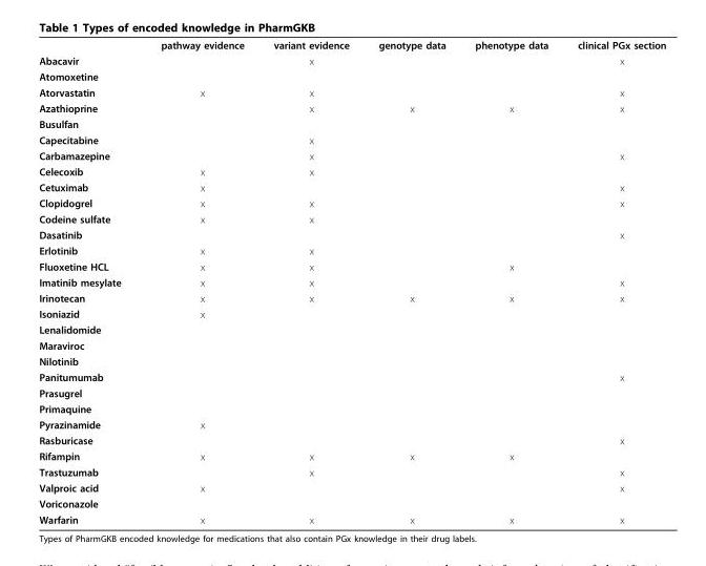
<table><thead><tr><td></td><td>pathway evidence</td><td>variant evidence</td><td>genotype data</td><td>phenotype data</td><td>clinical PGx section</td></tr></thead><tbody><tr><td>Abacavir</td><td></td><td>x</td><td></td><td></td><td>x</td></tr><tr><td colspan="6">Atomoxetine</td></tr><tr><td>Atorvastatin</td><td>x</td><td>x</td><td></td><td></td><td>x</td></tr><tr><td>Azathioprine</td><td></td><td>x</td><td>x</td><td>x</td><td>x</td></tr><tr><td colspan="6">Busulfan</td></tr><tr><td>Capecitabine</td><td></td><td>x</td><td></td><td></td><td></td></tr><tr><td>Carbamazepine</td><td></td><td>x</td><td></td><td></td><td>x</td></tr><tr><td>Celecoxib</td><td>x</td><td>x</td><td></td><td></td><td></td></tr><tr><td>Cetuximab</td><td>x</td><td></td><td></td><td></td><td>x</td></tr><tr><td>Clopidogrel</td><td>x</td><td>x</td><td></td><td></td><td>x</td></tr><tr><td>Codeine sulfate</td><td>x</td><td>x</td><td></td><td></td><td></td></tr><tr><td>Dasatinib</td><td></td><td></td><td></td><td></td><td>x</td></tr><tr><td>Erlotinib</td><td>x</td><td>x</td><td></td><td></td><td></td></tr><tr><td>Fluoxetine HCL</td><td>x</td><td>x</td><td></td><td>x</td><td></td></tr><tr><td>Imatinib mesylate</td><td>x</td><td>x</td><td></td><td></td><td>x</td></tr><tr><td>Irinotecan</td><td>x</td><td>x</td><td>x</td><td>x</td><td>x</td></tr><tr><td>Isoniazid</td><td>x</td><td></td><td></td><td></td><td></td></tr><tr><td colspan="6">Lenalidomide</td></tr><tr><td colspan="6">Maraviroc</td></tr><tr><td colspan="6">Nilotinib</td></tr><tr><td>Panitumumab</td><td></td><td></td><td></td><td></td><td>x</td></tr><tr><td colspan="6">Prasugrel</td></tr><tr><td colspan="6">Primaquine</td></tr><tr><td>Pyrazinamide</td><td>x</td><td></td><td></td><td></td><td></td></tr><tr><td>Rasburicase</td><td></td><td></td><td></td><td></td><td>x</td></tr><tr><td>Rifampin</td><td>x</td><td>x</td><td>x</td><td>x</td><td></td></tr><tr><td>Trastuzumab</td><td></td><td>x</td><td></td><td></td><td>x</td></tr><tr><td>Valproic acid</td><td>x</td><td></td><td></td><td></td><td>x</td></tr><tr><td colspan="6">Voriconazole</td></tr><tr><td>Warfarin</td><td>x</td><td>x</td><td>x</td><td>x</td><td>x</td></tr></tbody></table>